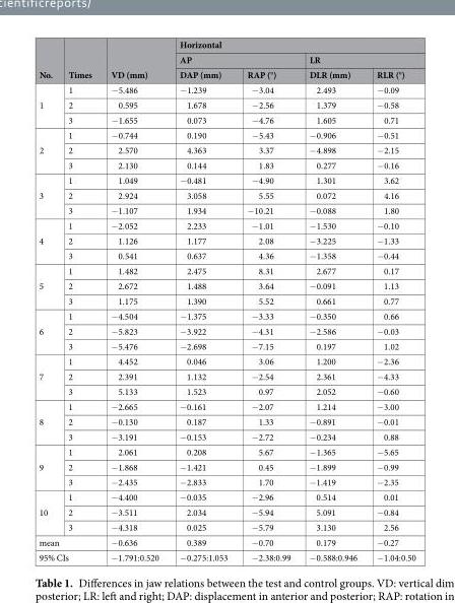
<table><thead><tr><td rowspan="3">No.</td><td rowspan="3">Times</td><td rowspan="3">VD (mm)</td><td colspan="4">Horizontal</td></tr><tr><td colspan="2">AP</td><td colspan="2">LR</td></tr><tr><td>DAP (mm)</td><td>RAP (°)</td><td>DLR (mm)</td><td>RLR (°)</td></tr></thead><tbody><tr><td rowspan="3">1</td><td>1</td><td>−5.486</td><td>−1.239</td><td>−3.04</td><td>2.493</td><td>−0.09</td></tr><tr><td>2</td><td>0.595</td><td>1.678</td><td>−2.56</td><td>1.379</td><td>−0.58</td></tr><tr><td>3</td><td>−1.655</td><td>0.073</td><td>−4.76</td><td>1.605</td><td>0.71</td></tr><tr><td rowspan="3">2</td><td>1</td><td>−0.744</td><td>0.190</td><td>−5.43</td><td>−0.906</td><td>−0.51</td></tr><tr><td>2</td><td>2.570</td><td>4.363</td><td>3.37</td><td>−4.898</td><td>−2.15</td></tr><tr><td>3</td><td>2.130</td><td>0.144</td><td>1.83</td><td>0.277</td><td>−0.16</td></tr><tr><td rowspan="3">3</td><td>1</td><td>1.049</td><td>−0.481</td><td>−4.90</td><td>1.301</td><td>3.62</td></tr><tr><td>2</td><td>2.924</td><td>3.058</td><td>5.55</td><td>0.072</td><td>4.16</td></tr><tr><td>3</td><td>−1.107</td><td>1.934</td><td>−10.21</td><td>−0.088</td><td>1.80</td></tr><tr><td rowspan="3">4</td><td>1</td><td>−2.052</td><td>2.233</td><td>−1.01</td><td>−1.530</td><td>−0.10</td></tr><tr><td>2</td><td>1.126</td><td>1.177</td><td>2.08</td><td>−3.225</td><td>−1.33</td></tr><tr><td>3</td><td>0.541</td><td>0.637</td><td>4.36</td><td>−1.358</td><td>−0.44</td></tr><tr><td rowspan="3">5</td><td>1</td><td>1.482</td><td>2.475</td><td>8.31</td><td>2.677</td><td>0.17</td></tr><tr><td>2</td><td>2.672</td><td>1.488</td><td>3.64</td><td>−0.091</td><td>1.13</td></tr><tr><td>3</td><td>1.175</td><td>1.390</td><td>5.52</td><td>0.661</td><td>0.77</td></tr><tr><td rowspan="3">6</td><td>1</td><td>−4.504</td><td>−1.375</td><td>−3.33</td><td>−0.350</td><td>0.66</td></tr><tr><td>2</td><td>−5.823</td><td>−3.922</td><td>−4.31</td><td>−2.586</td><td>−0.03</td></tr><tr><td>3</td><td>−5.476</td><td>−2.698</td><td>−7.15</td><td>0.197</td><td>1.02</td></tr><tr><td rowspan="3">7</td><td>1</td><td>4.452</td><td>0.046</td><td>3.06</td><td>1.200</td><td>−2.36</td></tr><tr><td>2</td><td>2.391</td><td>1.132</td><td>−2.54</td><td>2.361</td><td>−4.33</td></tr><tr><td>3</td><td>5.133</td><td>1.523</td><td>0.97</td><td>2.052</td><td>−0.60</td></tr><tr><td rowspan="3">8</td><td>1</td><td>−2.665</td><td>−0.161</td><td>−2.07</td><td>1.214</td><td>−3.00</td></tr><tr><td>2</td><td>−0.130</td><td>0.187</td><td>1.33</td><td>−0.891</td><td>−0.01</td></tr><tr><td>3</td><td>−3.191</td><td>−0.153</td><td>−2.72</td><td>−0.234</td><td>0.88</td></tr><tr><td rowspan="3">9</td><td>1</td><td>2.061</td><td>0.208</td><td>5.67</td><td>−1.365</td><td>−5.65</td></tr><tr><td>2</td><td>−1.868</td><td>−1.421</td><td>0.45</td><td>−1.899</td><td>−0.99</td></tr><tr><td>3</td><td>−2.435</td><td>−2.833</td><td>1.70</td><td>−1.419</td><td>−2.35</td></tr><tr><td rowspan="3">10</td><td>1</td><td>−4.400</td><td>−0.035</td><td>−2.96</td><td>0.514</td><td>0.01</td></tr><tr><td>2</td><td>−3.511</td><td>2.034</td><td>−5.94</td><td>5.091</td><td>−0.84</td></tr><tr><td>3</td><td>−4.318</td><td>0.025</td><td>−5.79</td><td>3.130</td><td>2.56</td></tr><tr><td colspan="2">mean</td><td>−0.636</td><td>0.389</td><td>−0.70</td><td>0.179</td><td>−0.27</td></tr><tr><td colspan="2">95% CIs</td><td>−1.791:0.520</td><td>−0.275:1.053</td><td>−2.38:0.99</td><td>−0.588:0.946</td><td>−1.04:0.50</td></tr></tbody></table>